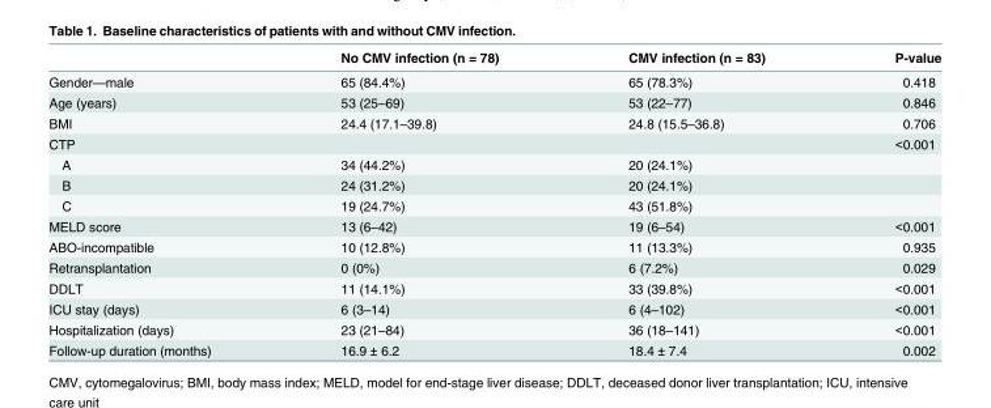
<table><thead><tr><td></td><td>No CMV infection (n = 78)</td><td>CMV infection (n = 83)</td><td>P-value</td></tr></thead><tbody><tr><td>Gender—male</td><td>65 (84.4%)</td><td>65 (78.3%)</td><td>0.418</td></tr><tr><td>Age (years)</td><td>53 (25–69)</td><td>53 (22–77)</td><td>0.846</td></tr><tr><td>BMI</td><td>24.4 (17.1–39.8)</td><td>24.8 (15.5–36.8)</td><td>0.706</td></tr><tr><td>CTP</td><td></td><td></td><td>&lt;0.001</td></tr><tr><td>A</td><td>34 (44.2%)</td><td>20 (24.1%)</td><td></td></tr><tr><td>B</td><td>24 (31.2%)</td><td>20 (24.1%)</td><td></td></tr><tr><td>C</td><td>19 (24.7%)</td><td>43 (51.8%)</td><td></td></tr><tr><td>MELD score</td><td>13 (6–42)</td><td>19 (6–54)</td><td>&lt;0.001</td></tr><tr><td>ABO-incompatible</td><td>10 (12.8%)</td><td>11 (13.3%)</td><td>0.935</td></tr><tr><td>Retransplantation</td><td>0 (0%)</td><td>6 (7.2%)</td><td>0.029</td></tr><tr><td>DDLT</td><td>11 (14.1%)</td><td>33 (39.8%)</td><td>&lt;0.001</td></tr><tr><td>ICU stay (days)</td><td>6 (3–14)</td><td>6 (4–102)</td><td>&lt;0.001</td></tr><tr><td>Hospitalization (days)</td><td>23 (21–84)</td><td>36 (18–141)</td><td>&lt;0.001</td></tr><tr><td>Follow-up duration (months)</td><td>16.9 ± 6.2</td><td>18.4 ± 7.4</td><td>0.002</td></tr></tbody></table>